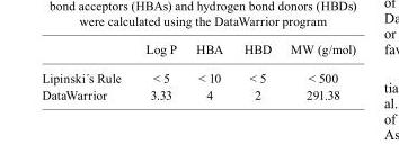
<table><thead><tr><td></td><td>Log P</td><td>HBA</td><td>HBD</td><td>MW (g/mol)</td></tr></thead><tbody><tr><td>Lipinski´s Rule</td><td>&lt; 5</td><td>&lt; 10</td><td>&lt; 5</td><td>&lt; 500</td></tr><tr><td>DataWarrior</td><td>3.33</td><td>4</td><td>2</td><td>291.38</td></tr></tbody></table>